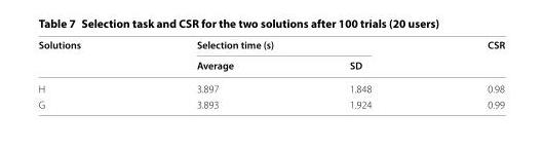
<table><thead><tr><td rowspan="2">Solutions</td><td colspan="2">Selection time (s)</td><td rowspan="2">CSR</td></tr><tr><td>Average</td><td>SD</td></tr></thead><tbody><tr><td>H</td><td>3.897</td><td>1.848</td><td>0.98</td></tr><tr><td>G</td><td>3.893</td><td>1.924</td><td>0.99</td></tr></tbody></table>